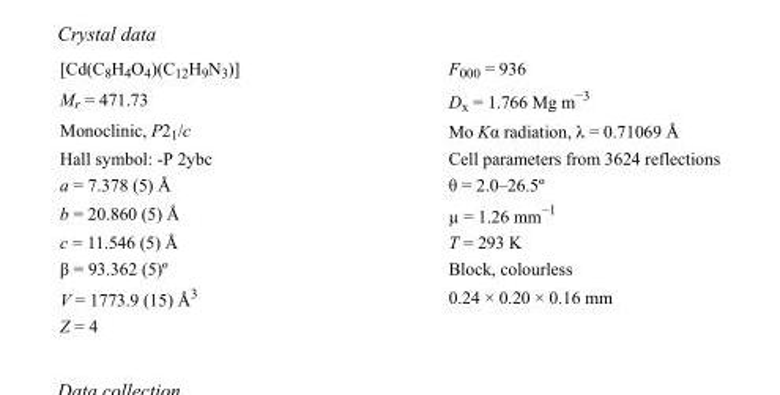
<table><tbody><tr><td>[Cd(C<sub>8</sub>H<sub>4</sub>O<sub>4</sub>)(C<sub>12</sub>H<sub>9</sub>N<sub>3</sub>)]</td><td>F000 = 936</td></tr><tr><td>M<sub>r</sub> = 471.73</td><td>D<sub>x</sub> = 1.766 Mg m<sup>−3</sup></td></tr><tr><td>Monoclinic, P2<sub>1</sub>/c</td><td>Mo Kα radiation, λ = 0.71069 Å</td></tr><tr><td>Hall symbol: -P 2ybc</td><td>Cell parameters from 3624 reflections</td></tr><tr><td>a = 7.378 (5) Å</td><td>θ = 2.0–26.5º</td></tr><tr><td>b = 20.860 (5) Å</td><td>µ = 1.26 mm<sup>−1</sup></td></tr><tr><td>c = 11.546 (5) Å</td><td>T = 293 K</td></tr><tr><td>β = 93.362 (5)º</td><td>Block, colourless</td></tr><tr><td>V = 1773.9 (15) Å<sup>3</sup></td><td>0.24 × 0.20 × 0.16 mm</td></tr><tr><td>Z = 4</td><td></td></tr></tbody></table>